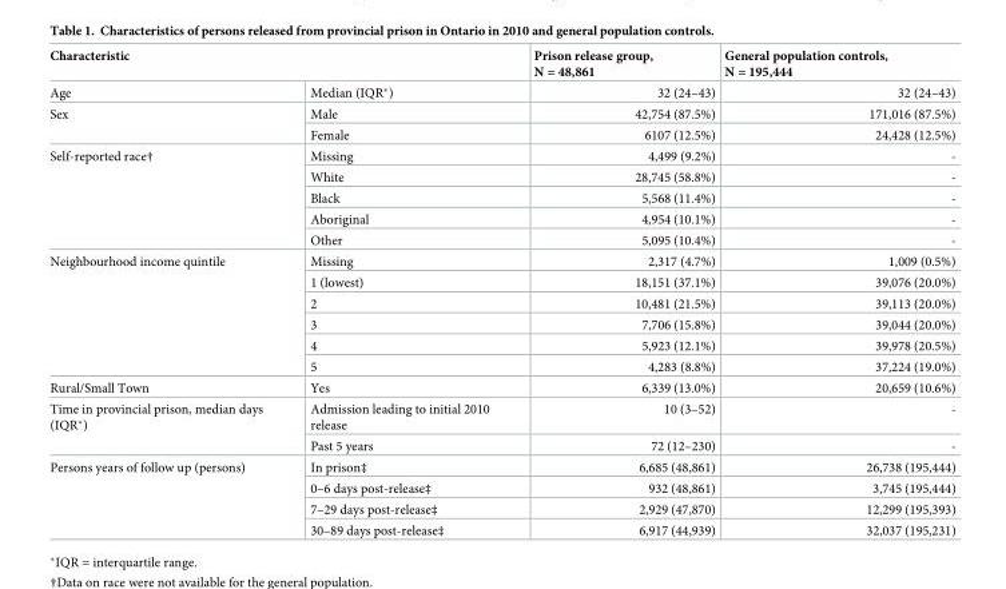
<table><thead><tr><td colspan="2">Characteristic</td><td rowspan="2">Prison release group, N = 48,861 32 (24–43)</td><td rowspan="2">General population controls, N = 195,444 32 (24–43)</td></tr><tr><td>Age</td><td>Median (IQR*)</td></tr></thead><tbody><tr><td rowspan="2">Sex</td><td>Male</td><td>42,754 (87.5%)</td><td>171,016 (87.5%)</td></tr><tr><td>Female</td><td>6107 (12.5%)</td><td>24,428 (12.5%)</td></tr><tr><td rowspan="5">Self-reported race†</td><td>Missing</td><td>4,499 (9.2%)</td><td>-</td></tr><tr><td>White</td><td>28,745 (58.8%)</td><td>-</td></tr><tr><td>Black</td><td>5,568 (11.4%)</td><td>-</td></tr><tr><td>Aboriginal</td><td>4,954 (10.1%)</td><td>-</td></tr><tr><td>Other</td><td>5,095 (10.4%)</td><td>-</td></tr><tr><td rowspan="6">Neighbourhood income quintile</td><td>Missing</td><td>2,317 (4.7%)</td><td>1,009 (0.5%)</td></tr><tr><td>1 (lowest)</td><td>18,151 (37.1%)</td><td>39,076 (20.0%)</td></tr><tr><td>2</td><td>10,481 (21.5%)</td><td>39,113 (20.0%)</td></tr><tr><td>3</td><td>7,706 (15.8%)</td><td>39,044 (20.0%)</td></tr><tr><td>4</td><td>5,923 (12.1%)</td><td>39,978 (20.5%)</td></tr><tr><td>5</td><td>4,283 (8.8%)</td><td>37,224 (19.0%)</td></tr><tr><td>Rural/Small Town</td><td>Yes</td><td>6,339 (13.0%)</td><td>20,659 (10.6%)</td></tr><tr><td rowspan="2">Time in provincial prison, median days (IQR*)</td><td>Admission leading to initial 2010 release</td><td>10 (3–52)</td><td>-</td></tr><tr><td>Past 5 years</td><td>72 (12–230)</td><td>-</td></tr><tr><td rowspan="4">Persons years of follow up (persons)</td><td>In prison‡</td><td>6,685 (48,861)</td><td>26,738 (195,444)</td></tr><tr><td>0–6 days post-release‡</td><td>932 (48,861)</td><td>3,745 (195,444)</td></tr><tr><td>7–29 days post-release‡</td><td>2,929 (47,870)</td><td>12,299 (195,393)</td></tr><tr><td>30–89 days post-release‡</td><td>6,917 (44,939)</td><td>32,037 (195,231)</td></tr></tbody></table>